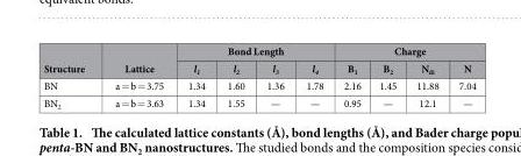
<table><thead><tr><td rowspan="2">Structure</td><td rowspan="2">Lattice</td><td colspan="4">Bond Length</td><td colspan="4">Charge</td></tr><tr><td>l<sub>1</sub></td><td>l<sub>2</sub></td><td>l<sub>3</sub></td><td>l<sub>4</sub></td><td>B<sub>1</sub></td><td>B<sub>2</sub></td><td>N<sub>di</sub></td><td>N</td></tr></thead><tbody><tr><td>BN</td><td>a = b = 3.75</td><td>1.34</td><td>1.60</td><td>1.36</td><td>1.78</td><td>2.16</td><td>1.45</td><td>11.88</td><td>7.04</td></tr><tr><td>BN<sub>2</sub></td><td>a = b = 3.63</td><td>1.34</td><td>1.55</td><td>—</td><td>—</td><td>0.95</td><td>—</td><td>12.1</td><td>—</td></tr></tbody></table>